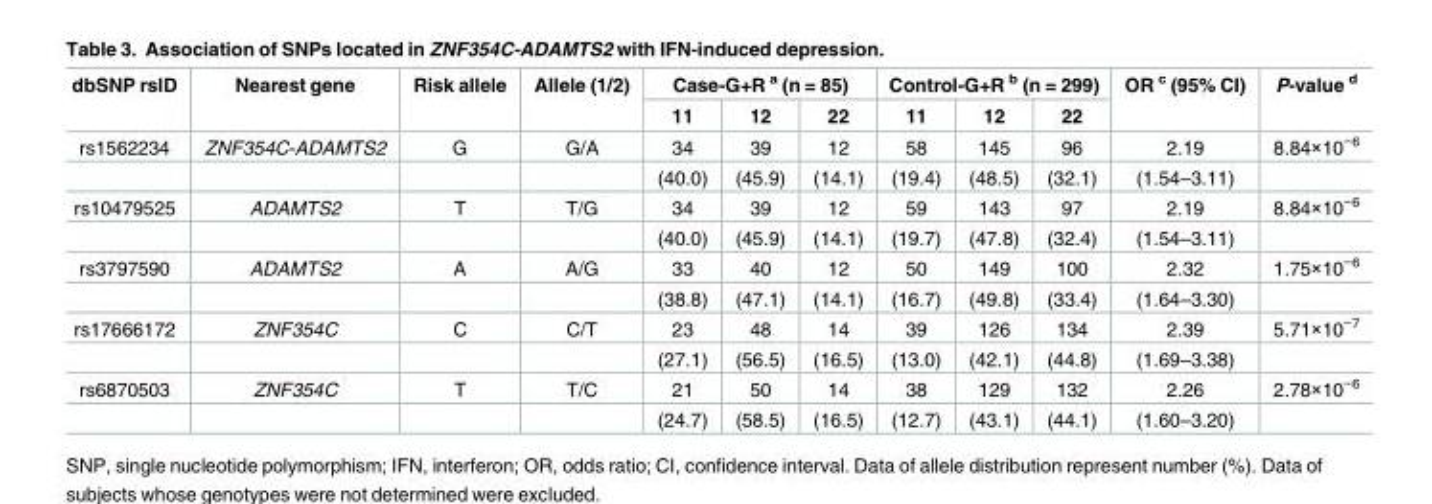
<table><thead><tr><td rowspan="2">dbSNP rsID</td><td rowspan="2">Nearest gene</td><td rowspan="2">Risk allele</td><td rowspan="2">Allele (1/2)</td><td colspan="3">Case-G+R <sup>a</sup> (n = 85)</td><td colspan="3">Control-G+R <sup>b</sup> (n = 299)</td><td rowspan="2">OR <sup>c</sup> (95% CI)</td><td rowspan="2">P-value <sup>d</sup></td></tr><tr><td>11</td><td>12</td><td>22</td><td>11</td><td>12</td><td>22</td></tr></thead><tbody><tr><td rowspan="2">rs1562234</td><td>ZNF354C-ADAMTS2</td><td>G</td><td>G/A</td><td>34</td><td>39</td><td>12</td><td>58</td><td>145</td><td>96</td><td>2.19</td><td>8.84×10<sup>−6</sup></td></tr><tr><td></td><td></td><td></td><td>(40.0)</td><td>(45.9)</td><td>(14.1)</td><td>(19.4)</td><td>(48.5)</td><td>(32.1)</td><td>(1.54–3.11)</td><td></td></tr><tr><td rowspan="2">rs10479525</td><td>ADAMTS2</td><td>T</td><td>T/G</td><td>34</td><td>39</td><td>12</td><td>59</td><td>143</td><td>97</td><td>2.19</td><td>8.84×10<sup>−6</sup></td></tr><tr><td></td><td></td><td></td><td>(40.0)</td><td>(45.9)</td><td>(14.1)</td><td>(19.7)</td><td>(47.8)</td><td>(32.4)</td><td>(1.54–3.11)</td><td></td></tr><tr><td rowspan="2">rs3797590</td><td>ADAMTS2</td><td>A</td><td>A/G</td><td>33</td><td>40</td><td>12</td><td>50</td><td>149</td><td>100</td><td>2.32</td><td>1.75×10<sup>−6</sup></td></tr><tr><td></td><td></td><td></td><td>(38.8)</td><td>(47.1)</td><td>(14.1)</td><td>(16.7)</td><td>(49.8)</td><td>(33.4)</td><td>(1.64–3.30)</td><td></td></tr><tr><td rowspan="2">rs17666172</td><td>ZNF354C</td><td>C</td><td>C/T</td><td>23</td><td>48</td><td>14</td><td>39</td><td>126</td><td>134</td><td>2.39</td><td>5.71×10<sup>−7</sup></td></tr><tr><td></td><td></td><td></td><td>(27.1)</td><td>(56.5)</td><td>(16.5)</td><td>(13.0)</td><td>(42.1)</td><td>(44.8)</td><td>(1.69–3.38)</td><td></td></tr><tr><td rowspan="2">rs6870503</td><td>ZNF354C</td><td>T</td><td>T/C</td><td>21</td><td>50</td><td>14</td><td>38</td><td>129</td><td>132</td><td>2.26</td><td>2.78×10<sup>−6</sup></td></tr><tr><td></td><td></td><td></td><td>(24.7)</td><td>(58.5)</td><td>(16.5)</td><td>(12.7)</td><td>(43.1)</td><td>(44.1)</td><td>(1.60–3.20)</td><td></td></tr></tbody></table>